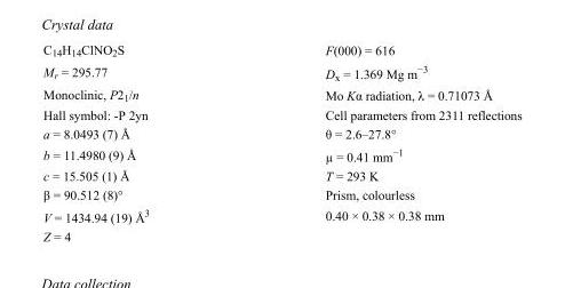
<table><tbody><tr><td>C<sub>14</sub>H<sub>14</sub>ClNO<sub>2</sub>S</td><td>F(000) = 616</td></tr><tr><td>M<sub>r</sub> = 295.77</td><td>D<sub>x</sub> = 1.369 Mg m<sup>−3</sup></td></tr><tr><td>Monoclinic, P2<sub>1</sub>/n</td><td>Mo Kα radiation, λ = 0.71073 Å</td></tr><tr><td>Hall symbol: -P 2yn</td><td>Cell parameters from 2311 reflections</td></tr><tr><td>a = 8.0493 (7) Å</td><td>θ = 2.6–27.8°</td></tr><tr><td>b = 11.4980 (9) Å</td><td>µ = 0.41 mm<sup>−1</sup></td></tr><tr><td>c = 15.505 (1) Å</td><td>T = 293 K</td></tr><tr><td>β = 90.512 (8)°</td><td>Prism, colourless</td></tr><tr><td>V = 1434.94 (19) Å<sup>3</sup></td><td>0.40 × 0.38 × 0.38 mm</td></tr><tr><td>Z = 4</td><td></td></tr></tbody></table>